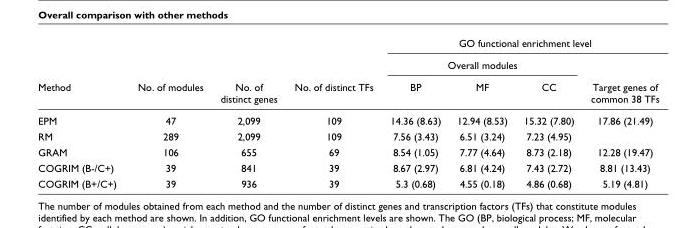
<table><thead><tr><td rowspan="3">Method</td><td rowspan="3">No. of modules</td><td rowspan="3">No. of distinct genes</td><td rowspan="3">No. of distinct TFs</td><td colspan="4">GO functional enrichment level</td></tr><tr><td colspan="3">Overall modules</td><td rowspan="2">Target genes of common 38 TFs</td></tr><tr><td>BP</td><td>MF</td><td>CC</td></tr></thead><tbody><tr><td>EPM</td><td>47</td><td>2,099</td><td>109</td><td>14.36 (8.63)</td><td>12.94 (8.53)</td><td>15.32 (7.80)</td><td>17.86 (21.49)</td></tr><tr><td>RM</td><td>289</td><td>2,099</td><td>109</td><td>7.56 (3.43)</td><td>6.51 (3.24)</td><td>7.23 (4.95)</td><td></td></tr><tr><td>GRAM</td><td>106</td><td>655</td><td>69</td><td>8.54 (1.05)</td><td>7.77 (4.64)</td><td>8.73 (2.18)</td><td>12.28 (19.47)</td></tr><tr><td>COGRIM (B-/C+)</td><td>39</td><td>841</td><td>39</td><td>8.67 (2.97)</td><td>6.81 (4.24)</td><td>7.43 (2.72)</td><td>8.81 (13.43)</td></tr><tr><td>COGRIM (B+/C+)</td><td>39</td><td>936</td><td>39</td><td>5.3 (0.68)</td><td>4.55 (0.18)</td><td>4.86 (0.68)</td><td>5.19 (4.81)</td></tr></tbody></table>